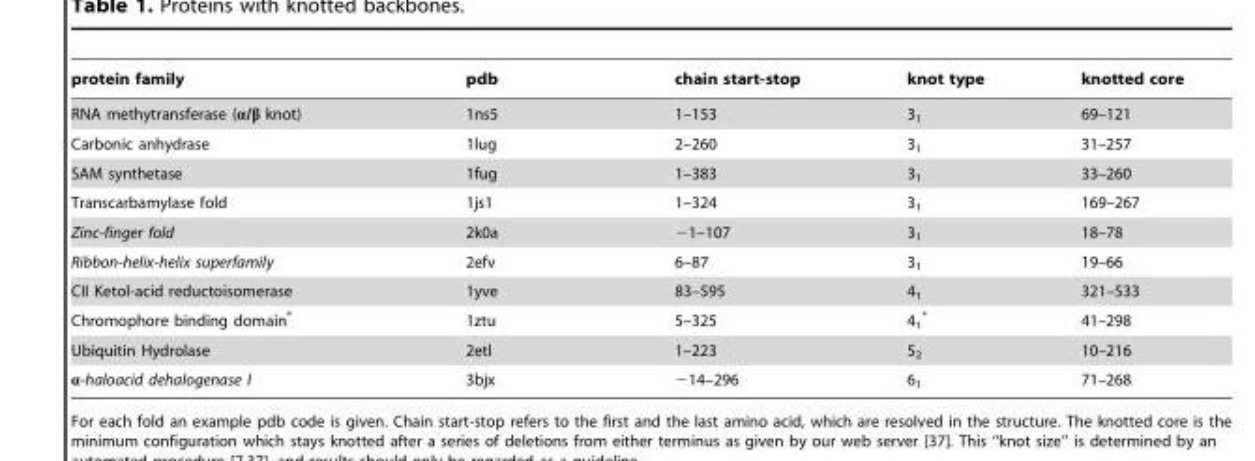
<table><thead><tr><td>protein family</td><td>pdb</td><td>chain start-stop</td><td>knot type</td><td>knotted core</td></tr></thead><tbody><tr><td>RNA methytransferase (α/β knot)</td><td>1ns5</td><td>1–153</td><td>3<sub>1</sub></td><td>69–121</td></tr><tr><td>Carbonic anhydrase</td><td>1lug</td><td>2–260</td><td>3<sub>1</sub></td><td>31–257</td></tr><tr><td>SAM synthetase</td><td>1fug</td><td>1–383</td><td>3<sub>1</sub></td><td>33–260</td></tr><tr><td>Transcarbamylase fold</td><td>1js1</td><td>1–324</td><td>3<sub>1</sub></td><td>169–267</td></tr><tr><td>Zinc-finger fold</td><td>2k0a</td><td>−1–107</td><td>3<sub>1</sub></td><td>18–78</td></tr><tr><td>Ribbon-helix-helix superfamily</td><td>2efv</td><td>6–87</td><td>3<sub>1</sub></td><td>19–66</td></tr><tr><td>CII Ketol-acid reductoisomerase</td><td>1yve</td><td>83–595</td><td>4<sub>1</sub></td><td>321–533</td></tr><tr><td>Chromophore binding domain*</td><td>1ztu</td><td>5–325</td><td>4<sub>1</sub> *</td><td>41–298</td></tr><tr><td>Ubiquitin Hydrolase</td><td>2etl</td><td>1–223</td><td>5<sub>2</sub></td><td>10–216</td></tr><tr><td>α-haloacid dehalogenase I</td><td>3bjx</td><td>−14–296</td><td>6<sub>1</sub></td><td>71–268</td></tr></tbody></table>